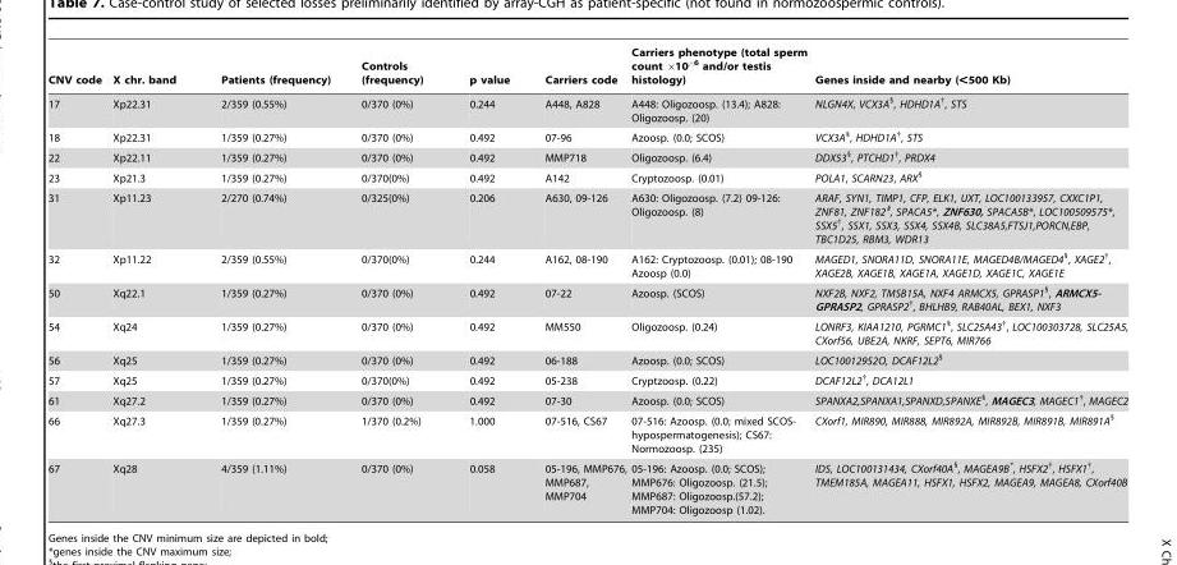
<table><thead><tr><td>CNV code</td><td>X chr. band</td><td>Patients (frequency)</td><td>Controls (frequency)</td><td>p value</td><td>Carriers code</td><td>Carriers phenotype (total sperm count 610‘6 and/or testis histology)</td><td>Genes inside and nearby (&lt;500 Kb)</td></tr></thead><tbody><tr><td>17</td><td>Xp22.31</td><td>2/359 (0.55%)</td><td>0/370 (0%)</td><td>0.244</td><td>A448, A828</td><td>A448: Oligozoosp. (13.4); A828: Oligozoosp. (20)</td><td>NLGN4X, VCX3A§, HDHD1A†, STS</td></tr><tr><td>18</td><td>Xp22.31</td><td>1/359 (0.27%)</td><td>0/370 (0%)</td><td>0.492</td><td>07-96</td><td>Azoosp. (0.0; SCOS)</td><td>VCX3A§, HDHD1A†, STS</td></tr><tr><td>22</td><td>Xp22.11</td><td>1/359 (0.27%)</td><td>0/370 (0%)</td><td>0.492</td><td>MMP718</td><td>Oligozoosp. (6.4)</td><td>DDX53§, PTCHD1†, PRDX4</td></tr><tr><td>23</td><td>Xp21.3</td><td>1/359 (0.27%)</td><td>0/370(0%)</td><td>0.492</td><td>A142</td><td>Cryptozoosp. (0.01)</td><td>POLA1, SCARN23, ARX§</td></tr><tr><td>31</td><td>Xp11.23</td><td>2/270 (0.74%)</td><td>0/325(0%)</td><td>0.206</td><td>A630, 09-126</td><td>A630: Oligozoosp. (7.2) 09-126: Oligozoosp. (8)</td><td>ARAF, SYN1, TIMP1, CFP, ELK1, UXT, LOC100133957, CXXC1P1, ZNF81, ZNF182§, SPACA5*, ZNF630, SPACA5B*, LOC100509575*, SSX5†, SSX1, SSX3, SSX4, SSX4B, SLC38A5,FTSJ1,PORCN,EBP, TBC1D25, RBM3, WDR13</td></tr><tr><td>32</td><td>Xp11.22</td><td>2/359 (0.55%)</td><td>0/370(0%)</td><td>0.244</td><td>A162, 08-190</td><td>A162: Cryptozoosp. (0.01); 08-190 Azoosp (0.0)</td><td>MAGED1, SNORA11D, SNORA11E, MAGED4B/MAGED4§, XAGE2†, XAGE2B, XAGE1B, XAGE1A, XAGE1D, XAGE1C, XAGE1E</td></tr><tr><td>50</td><td>Xq22.1</td><td>1/359 (0.27%)</td><td>0/370 (0%)</td><td>0.492</td><td>07-22</td><td>Azoosp. (SCOS)</td><td>NXF2B, NXF2, TMSB15A, NXF4 ARMCX5, GPRASP1§, ARMCX5- GPRASP2, GPRASP2†, BHLHB9, RAB40AL, BEX1, NXF3</td></tr><tr><td>54</td><td>Xq24</td><td>1/359 (0.27%)</td><td>0/370 (0%)</td><td>0.492</td><td>MM550</td><td>Oligozoosp. (0.24)</td><td>LONRF3, KIAA1210, PGRMC1§, SLC25A43†, LOC100303728, SLC25A5, CXorf56, UBE2A, NKRF, SEPT6, MIR766</td></tr><tr><td>56</td><td>Xq25</td><td>1/359 (0.27%)</td><td>0/370 (0%)</td><td>0.492</td><td>06-188</td><td>Azoosp. (0.0; SCOS)</td><td>LOC10012952O, DCAF12L2§</td></tr><tr><td>57</td><td>Xq25</td><td>1/359 (0.27%)</td><td>0/370(0%)</td><td>0.492</td><td>05-238</td><td>Cryptzoosp. (0.22)</td><td>DCAF12L2†, DCA12L1</td></tr><tr><td>61</td><td>Xq27.2</td><td>1/359 (0.27%)</td><td>0/370 (0%)</td><td>0.492</td><td>07-30</td><td>Azoosp. (0.0; SCOS)</td><td>SPANXA2,SPANXA1,SPANXD,SPANXE§, MAGEC3, MAGEC1†, MAGEC2</td></tr><tr><td>66</td><td>Xq27.3</td><td>1/359 (0.27%)</td><td>1/370 (0.2%)</td><td>1.000</td><td>07-516, CS67</td><td>07-516: Azoosp. (0.0; mixed SCOS- hypospermatogenesis); CS67: Normozoosp. (235)</td><td>CXorf1, MIR890, MIR888, MIR892A, MIR892B, MIR891B, MIR891A§</td></tr><tr><td>67</td><td>Xq28</td><td>4/359 (1.11%)</td><td>0/370 (0%)</td><td>0.058</td><td>05-196, MMP676, MMP687, MMP704</td><td>05-196: Azoosp. (0.0; SCOS); MMP676: Oligozoosp. (21.5); MMP687: Oligozoosp.(57.2); MMP704: Oligozoosp (1.02).</td><td>IDS, LOC100131434, CXorf40A§, MAGEA9B*, HSFX2†, HSFX1†, TMEM185A, MAGEA11, HSFX1, HSFX2, MAGEA9, MAGEA8, CXorf40B</td></tr></tbody></table>